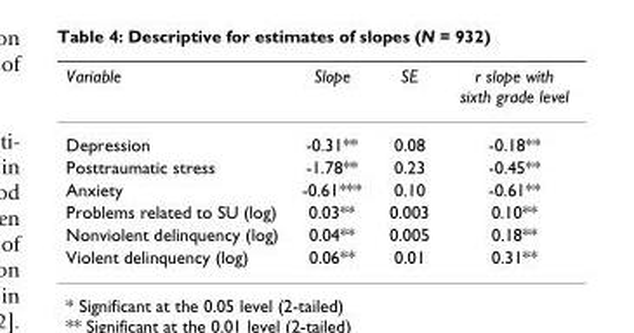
<table><thead><tr><td>Variable</td><td>Slope</td><td>SE</td><td>r slope with sixth grade level</td></tr></thead><tbody><tr><td>Depression</td><td>-0.31**</td><td>0.08</td><td>-0.18**</td></tr><tr><td>Posttraumatic stress</td><td>-1.78**</td><td>0.23</td><td>-0.45**</td></tr><tr><td>Anxiety</td><td>-0.61***</td><td>0.10</td><td>-0.61**</td></tr><tr><td>Problems related to SU (log)</td><td>0.03**</td><td>0.003</td><td>0.10**</td></tr><tr><td>Nonviolent delinquency (log)</td><td>0.04**</td><td>0.005</td><td>0.18**</td></tr><tr><td>Violent delinquency (log)</td><td>0.06**</td><td>0.01</td><td>0.31**</td></tr></tbody></table>